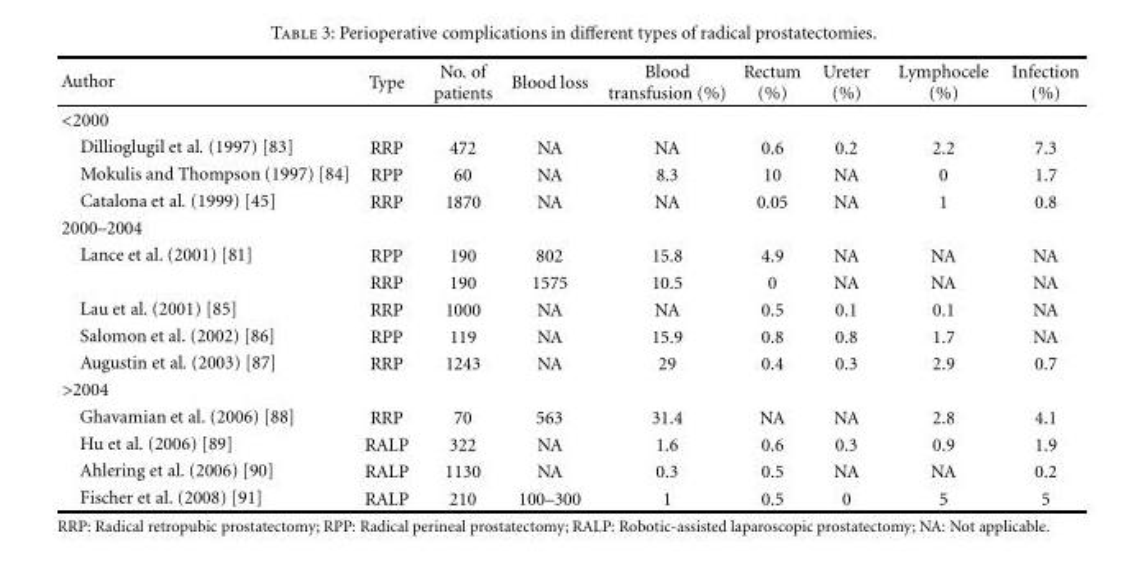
<table><thead><tr><td>Author</td><td>Type</td><td>No. of patients</td><td>Blood loss</td><td>Blood transfusion (%)</td><td>Rectum (%)</td><td>Ureter (%)</td><td>Lymphocele (%)</td><td>Infection (%)</td></tr></thead><tbody><tr><td colspan="9">&lt;2000</td></tr><tr><td>Dillioglugil et al. (1997) [83]</td><td>RRP</td><td>472</td><td>NA</td><td>NA</td><td>0.6</td><td>0.2</td><td>2.2</td><td>7.3</td></tr><tr><td>Mokulis and Thompson (1997) [84]</td><td>RPP</td><td>60</td><td>NA</td><td>8.3</td><td>10</td><td>NA</td><td>0</td><td>1.7</td></tr><tr><td>Catalona et al. (1999) [45]</td><td>RRP</td><td>1870</td><td>NA</td><td>NA</td><td>0.05</td><td>NA</td><td>1</td><td>0.8</td></tr><tr><td colspan="9">2000–2004</td></tr><tr><td rowspan="2">Lance et al. (2001) [81]</td><td>RPP</td><td>190</td><td>802</td><td>15.8</td><td>4.9</td><td>NA</td><td>NA</td><td>NA</td></tr><tr><td>RRP</td><td>190</td><td>1575</td><td>10.5</td><td>0</td><td>NA</td><td>NA</td><td>NA</td></tr><tr><td>Lau et al. (2001) [85]</td><td>RRP</td><td>1000</td><td>NA</td><td>NA</td><td>0.5</td><td>0.1</td><td>0.1</td><td>NA</td></tr><tr><td>Salomon et al. (2002) [86]</td><td>RPP</td><td>119</td><td>NA</td><td>15.9</td><td>0.8</td><td>0.8</td><td>1.7</td><td>NA</td></tr><tr><td>Augustin et al. (2003) [87]</td><td>RRP</td><td>1243</td><td>NA</td><td>29</td><td>0.4</td><td>0.3</td><td>2.9</td><td>0.7</td></tr><tr><td colspan="9">&gt;2004</td></tr><tr><td>Ghavamian et al. (2006) [88]</td><td>RRP</td><td>70</td><td>563</td><td>31.4</td><td>NA</td><td>NA</td><td>2.8</td><td>4.1</td></tr><tr><td>Hu et al. (2006) [89]</td><td>RALP</td><td>322</td><td>NA</td><td>1.6</td><td>0.6</td><td>0.3</td><td>0.9</td><td>1.9</td></tr><tr><td>Ahlering et al. (2006) [90]</td><td>RALP</td><td>1130</td><td>NA</td><td>0.3</td><td>0.5</td><td>NA</td><td>NA</td><td>0.2</td></tr><tr><td>Fischer et al. (2008) [91]</td><td>RALP</td><td>210</td><td>100–300</td><td>1</td><td>0.5</td><td>0</td><td>5</td><td>5</td></tr></tbody></table>